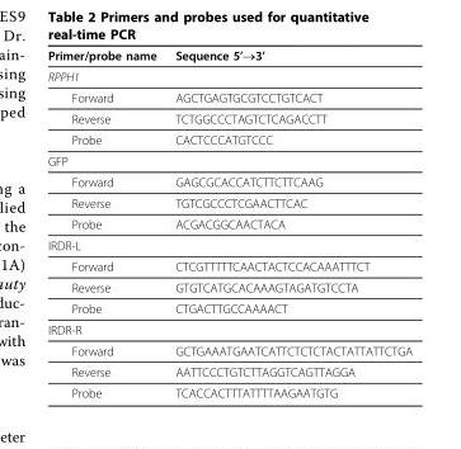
<table><thead><tr><td>Primer/probe name</td><td>Sequence 5’→3’</td></tr></thead><tbody><tr><td colspan="2">RPPH1</td></tr><tr><td>Forward</td><td>AGCTGAGTGCGTCCTGTCACT</td></tr><tr><td>Reverse</td><td>TCTGGCCCTAGTCTCAGACCTT</td></tr><tr><td>Probe</td><td>CACTCCCATGTCCC</td></tr><tr><td colspan="2">GFP</td></tr><tr><td>Forward</td><td>GAGCGCACCATCTTCTTCAAG</td></tr><tr><td>Reverse</td><td>TGTCGCCCTCGAACTTCAC</td></tr><tr><td>Probe</td><td>ACGACGGCAACTACA</td></tr><tr><td colspan="2">IRDR-L</td></tr><tr><td>Forward</td><td>CTCGTTTTTCAACTACTCCACAAATTTCT</td></tr><tr><td>Reverse</td><td>GTGTCATGCACAAAGTAGATGTCCTA</td></tr><tr><td>Probe</td><td>CTGACTTGCCAAAACT</td></tr><tr><td colspan="2">IRDR-R</td></tr><tr><td>Forward</td><td>GCTGAAATGAATCATTCTCTCTACTATTATTCTGA</td></tr><tr><td>Reverse</td><td>AATTCCCTGTCTTAGGTCAGTTAGGA</td></tr><tr><td>Probe</td><td>TCACCACTTTATTTTAAGAATGTG</td></tr></tbody></table>